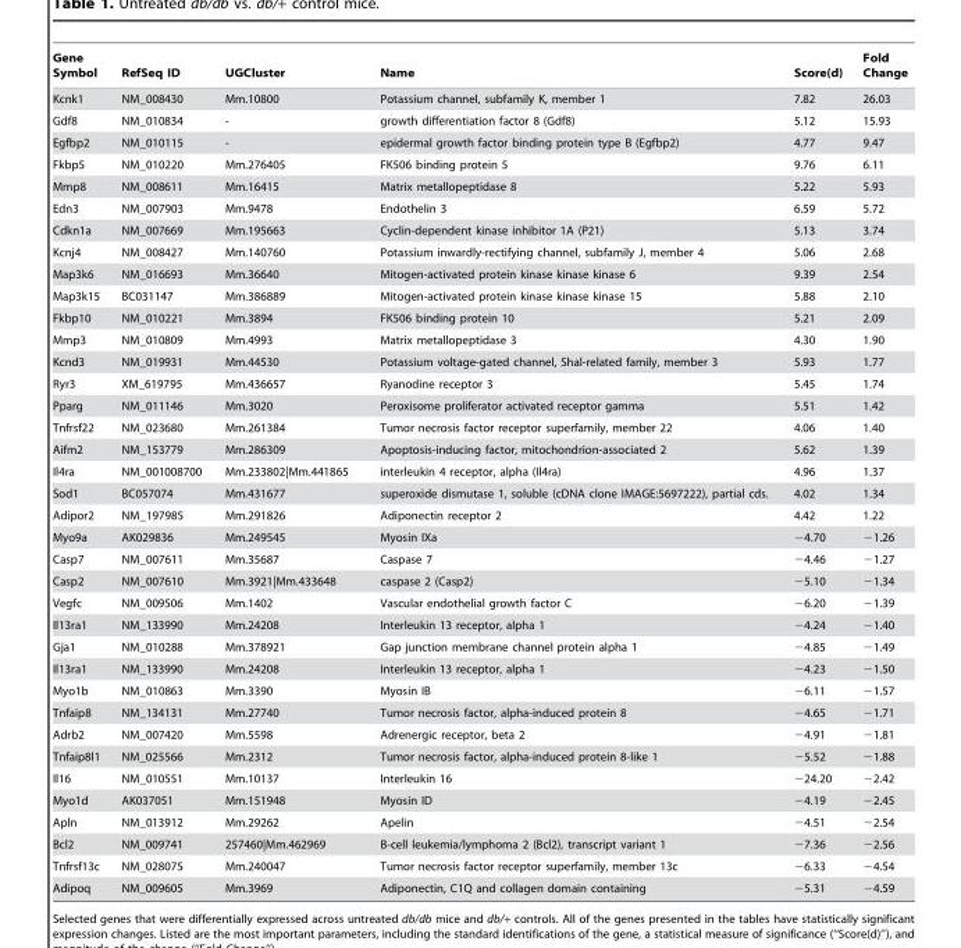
<table><thead><tr><td>Gene Symbol</td><td>RefSeq ID</td><td>UGCluster</td><td>Name</td><td>Score(d)</td><td>Fold Change</td></tr></thead><tbody><tr><td>Kcnk1</td><td>NM_008430</td><td>Mm.10800</td><td>Potassium channel, subfamily K, member 1</td><td>7.82</td><td>26.03</td></tr><tr><td>Gdf8</td><td>NM_010834</td><td>-</td><td>growth differentiation factor 8 (Gdf8)</td><td>5.12</td><td>15.93</td></tr><tr><td>Egfbp2</td><td>NM_010115</td><td>-</td><td>epidermal growth factor binding protein type B (Egfbp2)</td><td>4.77</td><td>9.47</td></tr><tr><td>Fkbp5</td><td>NM_010220</td><td>Mm.276405</td><td>FK506 binding protein 5</td><td>9.76</td><td>6.11</td></tr><tr><td>Mmp8</td><td>NM_008611</td><td>Mm.16415</td><td>Matrix metallopeptidase 8</td><td>5.22</td><td>5.93</td></tr><tr><td>Edn3</td><td>NM_007903</td><td>Mm.9478</td><td>Endothelin 3</td><td>6.59</td><td>5.72</td></tr><tr><td>Cdkn1a</td><td>NM_007669</td><td>Mm.195663</td><td>Cyclin-dependent kinase inhibitor 1A (P21)</td><td>5.13</td><td>3.74</td></tr><tr><td>Kcnj4</td><td>NM_008427</td><td>Mm.140760</td><td>Potassium inwardly-rectifying channel, subfamily J, member 4</td><td>5.06</td><td>2.68</td></tr><tr><td>Map3k6</td><td>NM_016693</td><td>Mm.36640</td><td>Mitogen-activated protein kinase kinase kinase 6</td><td>9.39</td><td>2.54</td></tr><tr><td>Map3k15</td><td>BC031147</td><td>Mm.386889</td><td>Mitogen-activated protein kinase kinase kinase 15</td><td>5.88</td><td>2.10</td></tr><tr><td>Fkbp10</td><td>NM_010221</td><td>Mm.3894</td><td>FK506 binding protein 10</td><td>5.21</td><td>2.09</td></tr><tr><td>Mmp3</td><td>NM_010809</td><td>Mm.4993</td><td>Matrix metallopeptidase 3</td><td>4.30</td><td>1.90</td></tr><tr><td>Kcnd3</td><td>NM_019931</td><td>Mm.44530</td><td>Potassium voltage-gated channel, Shal-related family, member 3</td><td>5.93</td><td>1.77</td></tr><tr><td>Ryr3</td><td>XM_619795</td><td>Mm.436657</td><td>Ryanodine receptor 3</td><td>5.45</td><td>1.74</td></tr><tr><td>Pparg</td><td>NM_011146</td><td>Mm.3020</td><td>Peroxisome proliferator activated receptor gamma</td><td>5.51</td><td>1.42</td></tr><tr><td>Tnfrsf22</td><td>NM_023680</td><td>Mm.261384</td><td>Tumor necrosis factor receptor superfamily, member 22</td><td>4.06</td><td>1.40</td></tr><tr><td>Aifm2</td><td>NM_153779</td><td>Mm.286309</td><td>Apoptosis-inducing factor, mitochondrion-associated 2</td><td>5.62</td><td>1.39</td></tr><tr><td>Il4ra</td><td>NM_001008700</td><td>Mm.233802|Mm.441865</td><td>interleukin 4 receptor, alpha (Il4ra)</td><td>4.96</td><td>1.37</td></tr><tr><td>Sod1</td><td>BC057074</td><td>Mm.431677</td><td>superoxide dismutase 1, soluble (cDNA clone IMAGE:5697222), partial cds.</td><td>4.02</td><td>1.34</td></tr><tr><td>Adipor2</td><td>NM_197985</td><td>Mm.291826</td><td>Adiponectin receptor 2</td><td>4.42</td><td>1.22</td></tr><tr><td>Myo9a</td><td>AK029836</td><td>Mm.249545</td><td>Myosin IXa</td><td>−4.70</td><td>−1.26</td></tr><tr><td>Casp7</td><td>NM_007611</td><td>Mm.35687</td><td>Caspase 7</td><td>−4.46</td><td>−1.27</td></tr><tr><td>Casp2</td><td>NM_007610</td><td>Mm.3921|Mm.433648</td><td>caspase 2 (Casp2)</td><td>−5.10</td><td>−1.34</td></tr><tr><td>Vegfc</td><td>NM_009506</td><td>Mm.1402</td><td>Vascular endothelial growth factor C</td><td>−6.20</td><td>−1.39</td></tr><tr><td>Il13ra1</td><td>NM_133990</td><td>Mm.24208</td><td>Interleukin 13 receptor, alpha 1</td><td>−4.24</td><td>−1.40</td></tr><tr><td>Gja1</td><td>NM_010288</td><td>Mm.378921</td><td>Gap junction membrane channel protein alpha 1</td><td>−4.85</td><td>−1.49</td></tr><tr><td>Il13ra1</td><td>NM_133990</td><td>Mm.24208</td><td>Interleukin 13 receptor, alpha 1</td><td>−4.23</td><td>−1.50</td></tr><tr><td>Myo1b</td><td>NM_010863</td><td>Mm.3390</td><td>Myosin IB</td><td>−6.11</td><td>−1.57</td></tr><tr><td>Tnfaip8</td><td>NM_134131</td><td>Mm.27740</td><td>Tumor necrosis factor, alpha-induced protein 8</td><td>−4.65</td><td>−1.71</td></tr><tr><td>Adrb2</td><td>NM_007420</td><td>Mm.5598</td><td>Adrenergic receptor, beta 2</td><td>−4.91</td><td>−1.81</td></tr><tr><td>Tnfaip8l1</td><td>NM_025566</td><td>Mm.2312</td><td>Tumor necrosis factor, alpha-induced protein 8-like 1</td><td>−5.52</td><td>−1.88</td></tr><tr><td>Il16</td><td>NM_010551</td><td>Mm.10137</td><td>Interleukin 16</td><td>−24.20</td><td>−2.42</td></tr><tr><td>Myo1d</td><td>AK037051</td><td>Mm.151948</td><td>Myosin ID</td><td>−4.19</td><td>−2.45</td></tr><tr><td>Apln</td><td>NM_013912</td><td>Mm.29262</td><td>Apelin</td><td>−4.51</td><td>−2.54</td></tr><tr><td>Bcl2</td><td>NM_009741</td><td>257460|Mm.462969</td><td>B-cell leukemia/lymphoma 2 (Bcl2), transcript variant 1</td><td>−7.36</td><td>−2.56</td></tr><tr><td>Tnfrsf13c</td><td>NM_028075</td><td>Mm.240047</td><td>Tumor necrosis factor receptor superfamily, member 13c</td><td>−6.33</td><td>−4.54</td></tr><tr><td>Adipoq</td><td>NM_009605</td><td>Mm.3969</td><td>Adiponectin, C1Q and collagen domain containing</td><td>−5.31</td><td>−4.59</td></tr></tbody></table>